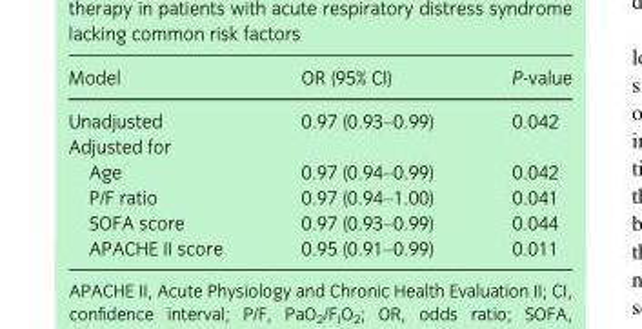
<table><thead><tr><td>Model</td><td>OR (95% CI)</td><td>P-value</td></tr></thead><tbody><tr><td>Unadjusted</td><td>0.97 (0.93–0.99)</td><td>0.042</td></tr><tr><td colspan="3">Adjusted for</td></tr><tr><td>Age</td><td>0.97 (0.94–0.99)</td><td>0.042</td></tr><tr><td>P/F ratio</td><td>0.97 (0.94–1.00)</td><td>0.041</td></tr><tr><td>SOFA score</td><td>0.97 (0.93–0.99)</td><td>0.044</td></tr><tr><td>APACHE II score</td><td>0.95 (0.91–0.99)</td><td>0.011</td></tr></tbody></table>